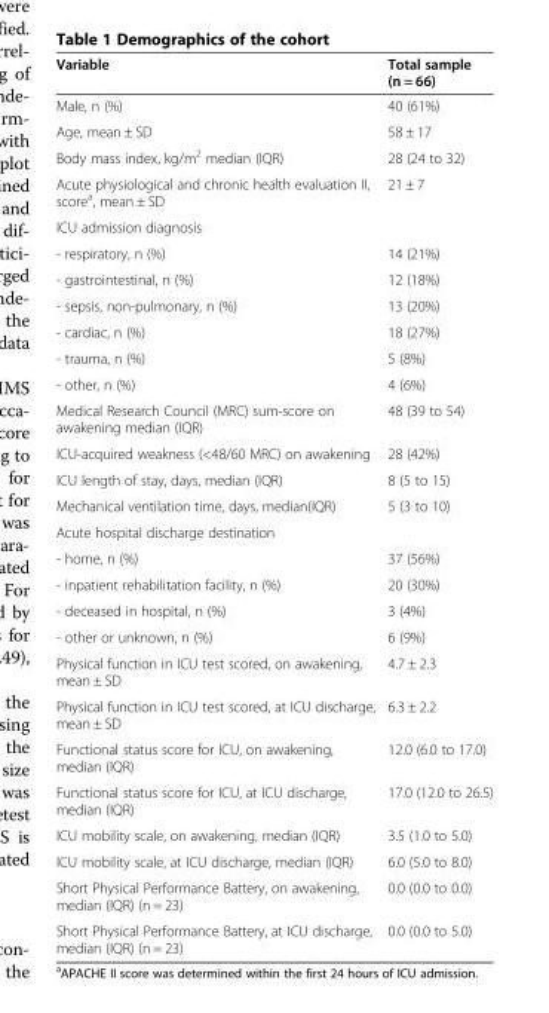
<table><thead><tr><td>Variable</td><td>Total sample (n = 66)</td></tr></thead><tbody><tr><td>Male, n (%)</td><td>40 (61%)</td></tr><tr><td>Age, mean ± SD</td><td>58 ± 17</td></tr><tr><td>Body mass index, kg/m<sup>2</sup> median (IQR)</td><td>28 (24 to 32)</td></tr><tr><td>Acute physiological and chronic health evaluation II, score<sup>a</sup>, mean ± SD</td><td>21 ± 7</td></tr><tr><td colspan="2">ICU admission diagnosis</td></tr><tr><td>- respiratory, n (%)</td><td>14 (21%)</td></tr><tr><td>- gastrointestinal, n (%)</td><td>12 (18%)</td></tr><tr><td>- sepsis, non-pulmonary, n (%)</td><td>13 (20%)</td></tr><tr><td>- cardiac, n (%)</td><td>18 (27%)</td></tr><tr><td>- trauma, n (%)</td><td>5 (8%)</td></tr><tr><td>- other, n (%)</td><td>4 (6%)</td></tr><tr><td>Medical Research Council (MRC) sum-score on awakening median (IQR)</td><td>48 (39 to 54)</td></tr><tr><td>ICU-acquired weakness (&lt;48/60 MRC) on awakening</td><td>28 (42%)</td></tr><tr><td>ICU length of stay, days, median (IQR)</td><td>8 (5 to 15)</td></tr><tr><td>Mechanical ventilation time, days, median(IQR)</td><td>5 (3 to 10)</td></tr><tr><td colspan="2">Acute hospital discharge destination</td></tr><tr><td>- home, n (%)</td><td>37 (56%)</td></tr><tr><td>- inpatient rehabilitation facility, n (%)</td><td>20 (30%)</td></tr><tr><td>- deceased in hospital, n (%)</td><td>3 (4%)</td></tr><tr><td>- other or unknown, n (%)</td><td>6 (9%)</td></tr><tr><td>Physical function in ICU test scored, on awakening, mean ± SD</td><td>4.7 ± 2.3</td></tr><tr><td>Physical function in ICU test scored, at ICU discharge, mean ± SD</td><td>6.3 ± 2.2</td></tr><tr><td>Functional status score for ICU, on awakening, median (IQR)</td><td>12.0 (6.0 to 17.0)</td></tr><tr><td>Functional status score for ICU, at ICU discharge, median (IQR)</td><td>17.0 (12.0 to 26.5)</td></tr><tr><td>ICU mobility scale, on awakening, median (IQR)</td><td>3.5 (1.0 to 5.0)</td></tr><tr><td>ICU mobility scale, at ICU discharge, median (IQR)</td><td>6.0 (5.0 to 8.0)</td></tr><tr><td>Short Physical Performance Battery, on awakening, median (IQR) (n = 23)</td><td>0.0 (0.0 to 0.0)</td></tr><tr><td>Short Physical Performance Battery, at ICU discharge, median (IQR) (n = 23)</td><td>0.0 (0.0 to 5.0)</td></tr></tbody></table>